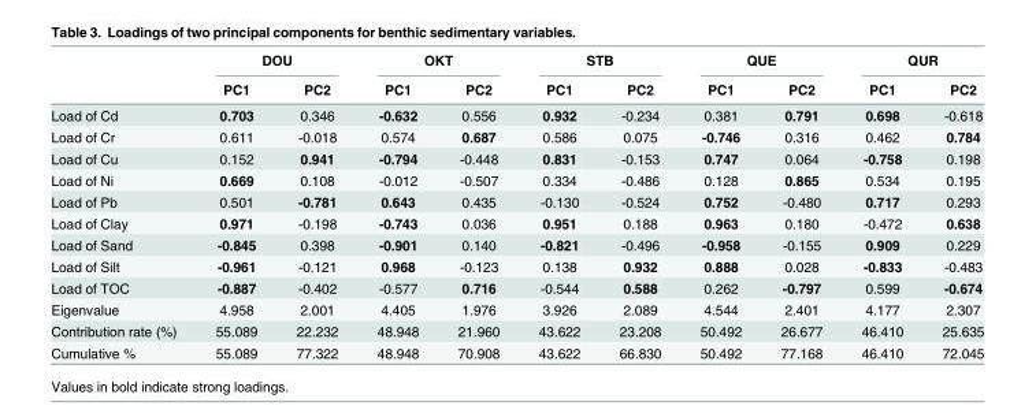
<table><thead><tr><td rowspan="2"></td><td colspan="2">DOU</td><td colspan="2">OKT</td><td colspan="2">STB</td><td colspan="2">QUE</td><td colspan="2">QUR</td></tr><tr><td>PC1</td><td>PC2</td><td>PC1</td><td>PC2</td><td>PC1</td><td>PC2</td><td>PC1</td><td>PC2</td><td>PC1</td><td>PC2</td></tr></thead><tbody><tr><td>Load of Cd</td><td>0.703</td><td>0.346</td><td>-0.632</td><td>0.556</td><td>0.932</td><td>-0.234</td><td>0.381</td><td>0.791</td><td>0.698</td><td>-0.618</td></tr><tr><td>Load of Cr</td><td>0.611</td><td>-0.018</td><td>0.574</td><td>0.687</td><td>0.586</td><td>0.075</td><td>-0.746</td><td>0.316</td><td>0.462</td><td>0.784</td></tr><tr><td>Load of Cu</td><td>0.152</td><td>0.941</td><td>-0.794</td><td>-0.448</td><td>0.831</td><td>-0.153</td><td>0.747</td><td>0.064</td><td>-0.758</td><td>0.198</td></tr><tr><td>Load of Ni</td><td>0.669</td><td>0.108</td><td>-0.012</td><td>-0.507</td><td>0.334</td><td>-0.486</td><td>0.128</td><td>0.865</td><td>0.534</td><td>0.195</td></tr><tr><td>Load of Pb</td><td>0.501</td><td>-0.781</td><td>0.643</td><td>0.435</td><td>-0.130</td><td>-0.524</td><td>0.752</td><td>-0.480</td><td>0.717</td><td>0.293</td></tr><tr><td>Load of Clay</td><td>0.971</td><td>-0.198</td><td>-0.743</td><td>0.036</td><td>0.951</td><td>0.188</td><td>0.963</td><td>0.180</td><td>-0.472</td><td>0.638</td></tr><tr><td>Load of Sand</td><td>-0.845</td><td>0.398</td><td>-0.901</td><td>0.140</td><td>-0.821</td><td>-0.496</td><td>-0.958</td><td>-0.155</td><td>0.909</td><td>0.229</td></tr><tr><td>Load of Silt</td><td>-0.961</td><td>-0.121</td><td>0.968</td><td>-0.123</td><td>0.138</td><td>0.932</td><td>0.888</td><td>0.028</td><td>-0.833</td><td>-0.483</td></tr><tr><td>Load of TOC</td><td>-0.887</td><td>-0.402</td><td>-0.577</td><td>0.716</td><td>-0.544</td><td>0.588</td><td>0.262</td><td>-0.797</td><td>0.599</td><td>-0.674</td></tr><tr><td>Eigenvalue</td><td>4.958</td><td>2.001</td><td>4.405</td><td>1.976</td><td>3.926</td><td>2.089</td><td>4.544</td><td>2.401</td><td>4.177</td><td>2.307</td></tr><tr><td>Contribution rate (%)</td><td>55.089</td><td>22.232</td><td>48.948</td><td>21.960</td><td>43.622</td><td>23.208</td><td>50.492</td><td>26.677</td><td>46.410</td><td>25.635</td></tr><tr><td>Cumulative %</td><td>55.089</td><td>77.322</td><td>48.948</td><td>70.908</td><td>43.622</td><td>66.830</td><td>50.492</td><td>77.168</td><td>46.410</td><td>72.045</td></tr></tbody></table>